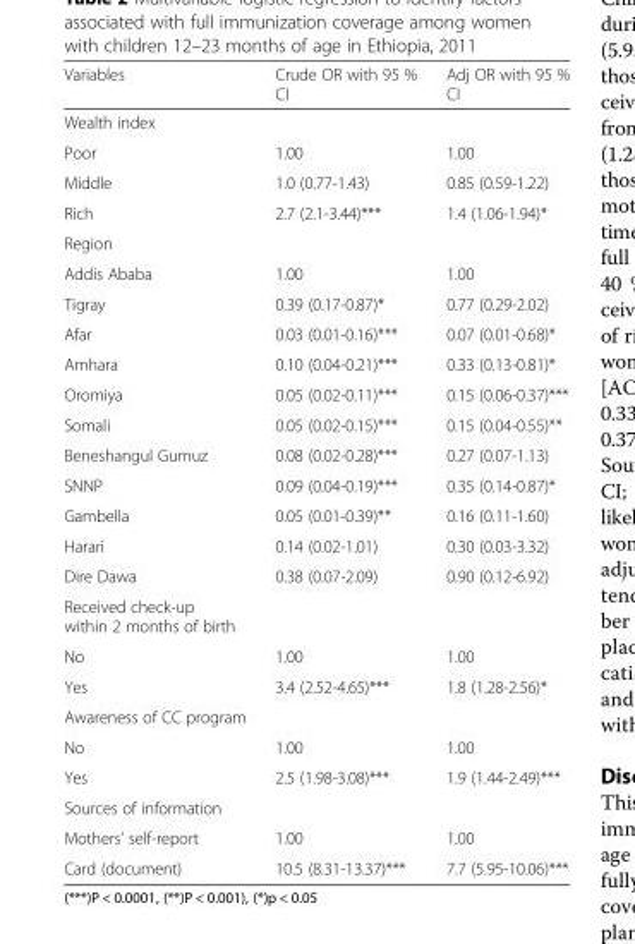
<table><thead><tr><td>Variables</td><td>Crude OR with 95 % CI</td><td>Adj OR with 95 % CI</td></tr></thead><tbody><tr><td colspan="3">Wealth index</td></tr><tr><td>Poor</td><td>1.00</td><td>1.00</td></tr><tr><td>Middle</td><td>1.0 (0.77-1.43)</td><td>0.85 (0.59-1.22)</td></tr><tr><td>Rich</td><td>2.7 (2.1-3.44)***</td><td>1.4 (1.06-1.94)*</td></tr><tr><td colspan="3">Region</td></tr><tr><td>Addis Ababa</td><td>1.00</td><td>1.00</td></tr><tr><td>Tigray</td><td>0.39 (0.17-0.87)*</td><td>0.77 (0.29-2.02)</td></tr><tr><td>Afar</td><td>0.03 (0.01-0.16)***</td><td>0.07 (0.01-0.68)*</td></tr><tr><td>Amhara</td><td>0.10 (0.04-0.21)***</td><td>0.33 (0.13-0.81)*</td></tr><tr><td>Oromiya</td><td>0.05 (0.02-0.11)***</td><td>0.15 (0.06-0.37)***</td></tr><tr><td>Somali</td><td>0.05 (0.02-0.15)***</td><td>0.15 (0.04-0.55)**</td></tr><tr><td>Beneshangul Gumuz</td><td>0.08 (0.02-0.28)***</td><td>0.27 (0.07-1.13)</td></tr><tr><td>SNNP</td><td>0.09 (0.04-0.19)***</td><td>0.35 (0.14-0.87)*</td></tr><tr><td>Gambella</td><td>0.05 (0.01-0.39)**</td><td>0.16 (0.11-1.60)</td></tr><tr><td>Harari</td><td>0.14 (0.02-1.01)</td><td>0.30 (0.03-3.32)</td></tr><tr><td>Dire Dawa</td><td>0.38 (0.07-2.09)</td><td>0.90 (0.12-6.92)</td></tr><tr><td colspan="3">Received check-up within 2 months of birth</td></tr><tr><td>No</td><td>1.00</td><td>1.00</td></tr><tr><td>Yes</td><td>3.4 (2.52-4.65)***</td><td>1.8 (1.28-2.56)*</td></tr><tr><td colspan="3">Awareness of CC program</td></tr><tr><td>No</td><td>1.00</td><td>1.00</td></tr><tr><td>Yes</td><td>2.5 (1.98-3.08)***</td><td>1.9 (1.44-2.49)***</td></tr><tr><td colspan="3">Sources of information</td></tr><tr><td>Mothers’ self-report</td><td>1.00</td><td>1.00</td></tr><tr><td>Card (document)</td><td>10.5 (8.31-13.37)***</td><td>7.7 (5.95-10.06)***</td></tr></tbody></table>